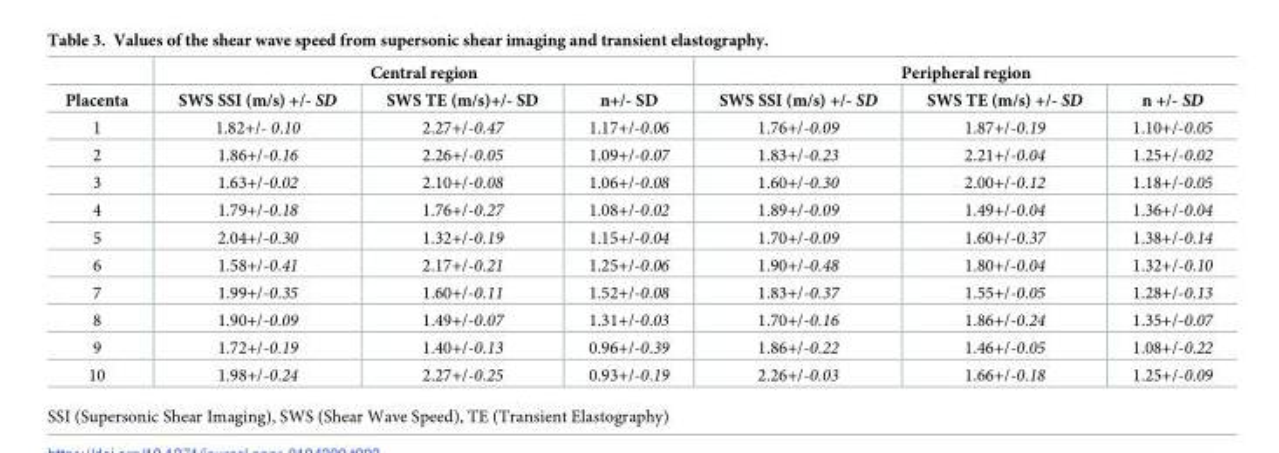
<table><thead><tr><td rowspan="2">Placenta</td><td colspan="3">Central region</td><td colspan="3">Peripheral region</td></tr><tr><td>SWS SSI (m/s) +/- SD</td><td>SWS TE (m/s)+/- SD</td><td>n+/- SD</td><td>SWS SSI (m/s) +/- SD</td><td>SWS TE (m/s) +/- SD</td><td>n +/- SD</td></tr></thead><tbody><tr><td>1</td><td>1.82+/- 0.10</td><td>2.27+/-0.47</td><td>1.17+/-0.06</td><td>1.76+/-0.09</td><td>1.87+/-0.19</td><td>1.10+/-0.05</td></tr><tr><td>2</td><td>1.86+/-0.16</td><td>2.26+/-0.05</td><td>1.09+/-0.07</td><td>1.83+/-0.23</td><td>2.21+/-0.04</td><td>1.25+/-0.02</td></tr><tr><td>3</td><td>1.63+/-0.02</td><td>2.10+/-0.08</td><td>1.06+/-0.08</td><td>1.60+/-0.30</td><td>2.00+/-0.12</td><td>1.18+/-0.05</td></tr><tr><td>4</td><td>1.79+/-0.18</td><td>1.76+/-0.27</td><td>1.08+/-0.02</td><td>1.89+/-0.09</td><td>1.49+/-0.04</td><td>1.36+/-0.04</td></tr><tr><td>5</td><td>2.04+/-0.30</td><td>1.32+/-0.19</td><td>1.15+/-0.04</td><td>1.70+/-0.09</td><td>1.60+/-0.37</td><td>1.38+/-0.14</td></tr><tr><td>6</td><td>1.58+/-0.41</td><td>2.17+/-0.21</td><td>1.25+/-0.06</td><td>1.90+/-0.48</td><td>1.80+/-0.04</td><td>1.32+/-0.10</td></tr><tr><td>7</td><td>1.99+/-0.35</td><td>1.60+/-0.11</td><td>1.52+/-0.08</td><td>1.83+/-0.37</td><td>1.55+/-0.05</td><td>1.28+/-0.13</td></tr><tr><td>8</td><td>1.90+/-0.09</td><td>1.49+/-0.07</td><td>1.31+/-0.03</td><td>1.70+/-0.16</td><td>1.86+/-0.24</td><td>1.35+/-0.07</td></tr><tr><td>9</td><td>1.72+/-0.19</td><td>1.40+/-0.13</td><td>0.96+/-0.39</td><td>1.86+/-0.22</td><td>1.46+/-0.05</td><td>1.08+/-0.22</td></tr><tr><td>10</td><td>1.98+/-0.24</td><td>2.27+/-0.25</td><td>0.93+/-0.19</td><td>2.26+/-0.03</td><td>1.66+/-0.18</td><td>1.25+/-0.09</td></tr></tbody></table>